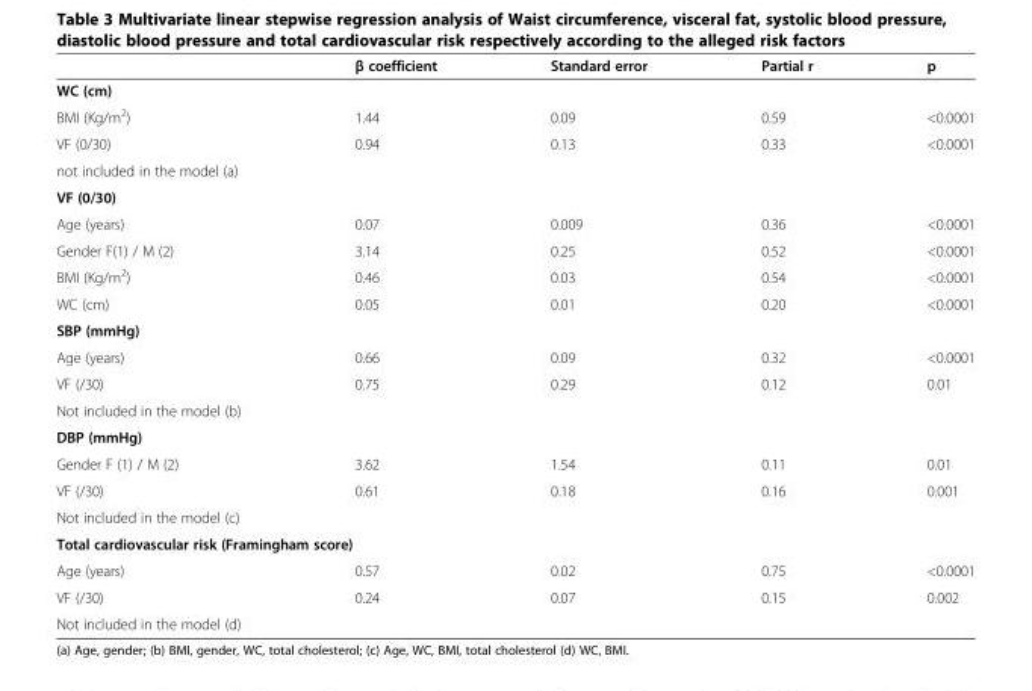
<table><thead><tr><td></td><td>β coefficient</td><td>Standard error</td><td>Partial r</td><td>p</td></tr></thead><tbody><tr><td colspan="5">WC (cm)</td></tr><tr><td>BMI (Kg/m<sup>2</sup>)</td><td>1.44</td><td>0.09</td><td>0.59</td><td>&lt;0.0001</td></tr><tr><td>VF (0/30)</td><td>0.94</td><td>0.13</td><td>0.33</td><td>&lt;0.0001</td></tr><tr><td colspan="5">not included in the model (a)</td></tr><tr><td colspan="5">VF (0/30)</td></tr><tr><td>Age (years)</td><td>0.07</td><td>0.009</td><td>0.36</td><td>&lt;0.0001</td></tr><tr><td>Gender F(1) / M (2)</td><td>3.14</td><td>0.25</td><td>0.52</td><td>&lt;0.0001</td></tr><tr><td>BMI (Kg/m<sup>2</sup>)</td><td>0.46</td><td>0.03</td><td>0.54</td><td>&lt;0.0001</td></tr><tr><td>WC (cm)</td><td>0.05</td><td>0.01</td><td>0.20</td><td>&lt;0.0001</td></tr><tr><td colspan="5">SBP (mmHg)</td></tr><tr><td>Age (years)</td><td>0.66</td><td>0.09</td><td>0.32</td><td>&lt;0.0001</td></tr><tr><td>VF (/30)</td><td>0.75</td><td>0.29</td><td>0.12</td><td>0.01</td></tr><tr><td colspan="5">Not included in the model (b)</td></tr><tr><td colspan="5">DBP (mmHg)</td></tr><tr><td>Gender F (1) / M (2)</td><td>3.62</td><td>1.54</td><td>0.11</td><td>0.01</td></tr><tr><td>VF (/30)</td><td>0.61</td><td>0.18</td><td>0.16</td><td>0.001</td></tr><tr><td colspan="5">Not included in the model (c)</td></tr><tr><td colspan="5">Total cardiovascular risk (Framingham score)</td></tr><tr><td>Age (years)</td><td>0.57</td><td>0.02</td><td>0.75</td><td>&lt;0.0001</td></tr><tr><td>VF (/30)</td><td>0.24</td><td>0.07</td><td>0.15</td><td>0.002</td></tr><tr><td>Not included in the model (d)</td><td></td><td></td><td></td><td></td></tr></tbody></table>